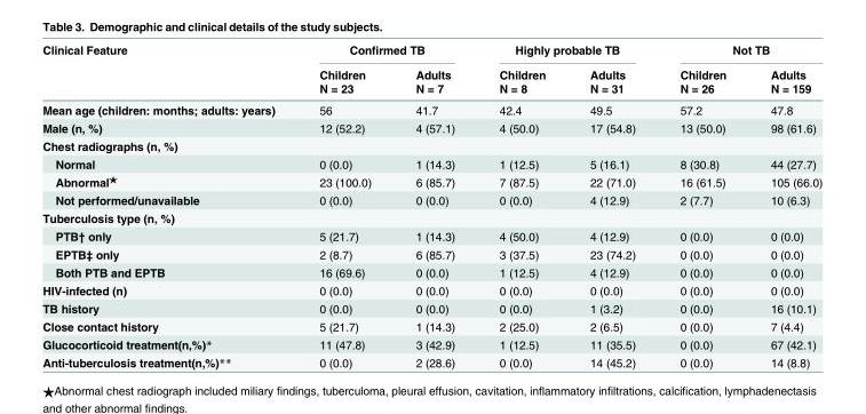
<table><thead><tr><td rowspan="3">Clinical Feature</td><td colspan="2">Confirmed TB</td><td colspan="2">Highly probable TB</td><td colspan="2">Not TB</td></tr><tr><td rowspan="2">Children N = 23</td><td rowspan="2">Adults N = 7</td><td rowspan="2">Children N = 8</td><td rowspan="2">Adults N = 31</td><td rowspan="2">Children N = 26</td><td rowspan="2">Adults N = 159</td></tr><tr></tr></thead><tbody><tr><td>Mean age (children: months; adults: years)</td><td>56</td><td>41.7</td><td>42.4</td><td>49.5</td><td>57.2</td><td>47.8</td></tr><tr><td>Male (n, %)</td><td>12 (52.2)</td><td>4 (57.1)</td><td>4 (50.0)</td><td>17 (54.8)</td><td>13 (50.0)</td><td>98 (61.6)</td></tr><tr><td colspan="7">Chest radiographs (n, %)</td></tr><tr><td>Normal</td><td>0 (0.0)</td><td>1 (14.3)</td><td>1 (12.5)</td><td>5 (16.1)</td><td>8 (30.8)</td><td>44 (27.7)</td></tr><tr><td>Abnormal<sup>★</sup></td><td>23 (100.0)</td><td>6 (85.7)</td><td>7 (87.5)</td><td>22 (71.0)</td><td>16 (61.5)</td><td>105 (66.0)</td></tr><tr><td>Not performed/unavailable</td><td>0 (0.0)</td><td>0 (0.0)</td><td>0 (0.0)</td><td>4 (12.9)</td><td>2 (7.7)</td><td>10 (6.3)</td></tr><tr><td colspan="7">Tuberculosis type (n, %)</td></tr><tr><td>PTB† only</td><td>5 (21.7)</td><td>1 (14.3)</td><td>4 (50.0)</td><td>4 (12.9)</td><td>0 (0.0)</td><td>0 (0.0)</td></tr><tr><td>EPTB‡ only</td><td>2 (8.7)</td><td>6 (85.7)</td><td>3 (37.5)</td><td>23 (74.2)</td><td>0 (0.0)</td><td>0 (0.0)</td></tr><tr><td>Both PTB and EPTB</td><td>16 (69.6)</td><td>0 (0.0)</td><td>1 (12.5)</td><td>4 (12.9)</td><td>0 (0.0)</td><td>0 (0.0)</td></tr><tr><td>HIV-infected (n)</td><td>0 (0.0)</td><td>0 (0.0)</td><td>0 (0.0)</td><td>0 (0.0)</td><td>0 (0.0)</td><td>0 (0.0)</td></tr><tr><td>TB history</td><td>0 (0.0)</td><td>0 (0.0)</td><td>0 (0.0)</td><td>1 (3.2)</td><td>0 (0.0)</td><td>16 (10.1)</td></tr><tr><td>Close contact history</td><td>5 (21.7)</td><td>1 (14.3)</td><td>2 (25.0)</td><td>2 (6.5)</td><td>0 (0.0)</td><td>7 (4.4)</td></tr><tr><td>Glucocorticoid treatment(n,%)*</td><td>11 (47.8)</td><td>3 (42.9)</td><td>1 (12.5)</td><td>11 (35.5)</td><td>0 (0.0)</td><td>67 (42.1)</td></tr><tr><td>Anti-tuberculosis treatment(n,%)**</td><td>0 (0.0)</td><td>2 (28.6)</td><td>0 (0.0)</td><td>14 (45.2)</td><td>0 (0.0)</td><td>14 (8.8)</td></tr></tbody></table>